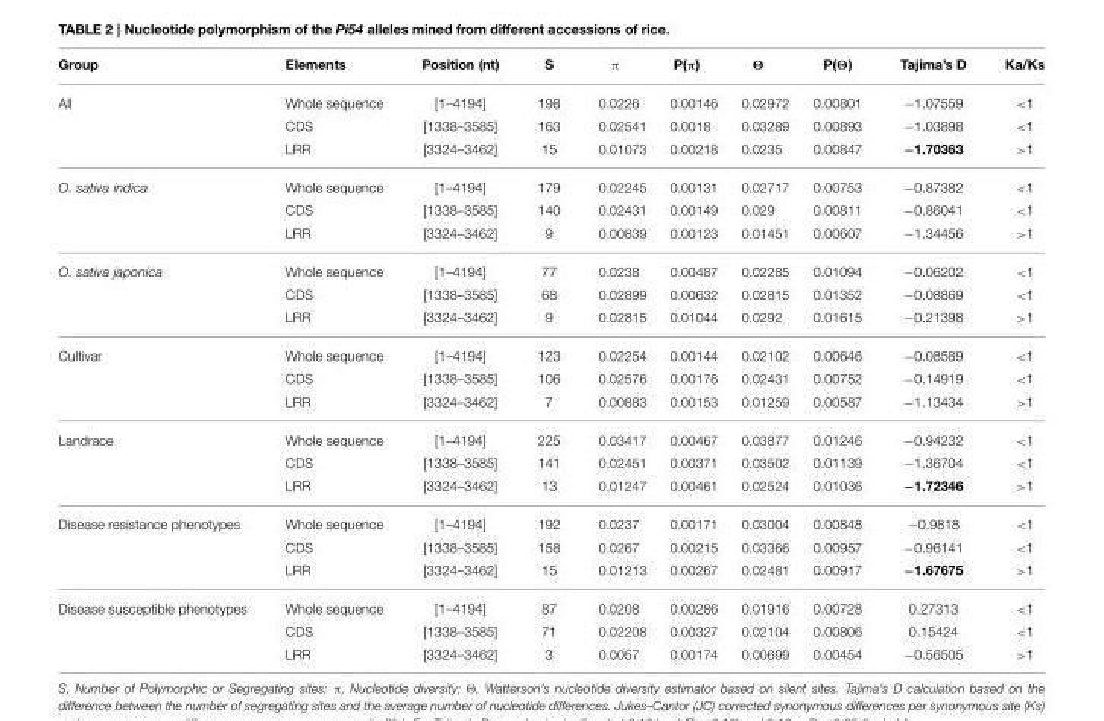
<table><thead><tr><td>Group</td><td>Elements</td><td>Position (nt)</td><td>S</td><td>π</td><td>P(π)</td><td>Θ</td><td>P(Θ)</td><td>Tajima’s D</td><td>Ka/Ks</td></tr></thead><tbody><tr><td rowspan="3">All</td><td>Whole sequence</td><td>[1–4194]</td><td>198</td><td>0.0226</td><td>0.00146</td><td>0.02972</td><td>0.00801</td><td>−1.07559</td><td>&lt;1</td></tr><tr><td>CDS</td><td>[1338–3585]</td><td>163</td><td>0.02541</td><td>0.0018</td><td>0.03289</td><td>0.00893</td><td>−1.03898</td><td>&lt;1</td></tr><tr><td>LRR</td><td>[3324–3462]</td><td>15</td><td>0.01073</td><td>0.00218</td><td>0.0235</td><td>0.00847</td><td>−1.70363</td><td>&gt;1</td></tr><tr><td rowspan="3">O. sativa indica</td><td>Whole sequence</td><td>[1–4194]</td><td>179</td><td>0.02245</td><td>0.00131</td><td>0.02717</td><td>0.00753</td><td>−0.87382</td><td>&lt;1</td></tr><tr><td>CDS</td><td>[1338–3585]</td><td>140</td><td>0.02431</td><td>0.00149</td><td>0.029</td><td>0.00811</td><td>−0.86041</td><td>&lt;1</td></tr><tr><td>LRR</td><td>[3324–3462]</td><td>9</td><td>0.00839</td><td>0.00123</td><td>0.01451</td><td>0.00607</td><td>−1.34456</td><td>&gt;1</td></tr><tr><td rowspan="3">O. sativa japonica</td><td>Whole sequence</td><td>[1–4194]</td><td>77</td><td>0.0238</td><td>0.00487</td><td>0.02285</td><td>0.01094</td><td>−0.06202</td><td>&lt;1</td></tr><tr><td>CDS</td><td>[1338–3585]</td><td>68</td><td>0.02899</td><td>0.00632</td><td>0.02815</td><td>0.01352</td><td>−0.08869</td><td>&lt;1</td></tr><tr><td>LRR</td><td>[3324–3462]</td><td>9</td><td>0.02815</td><td>0.01044</td><td>0.0292</td><td>0.01615</td><td>−0.21398</td><td>&gt;1</td></tr><tr><td rowspan="3">Cultivar</td><td>Whole sequence</td><td>[1–4194]</td><td>123</td><td>0.02254</td><td>0.00144</td><td>0.02102</td><td>0.00646</td><td>−0.08589</td><td>&lt;1</td></tr><tr><td>CDS</td><td>[1338–3585]</td><td>106</td><td>0.02576</td><td>0.00176</td><td>0.02431</td><td>0.00752</td><td>−0.14919</td><td>&lt;1</td></tr><tr><td>LRR</td><td>[3324–3462]</td><td>7</td><td>0.00883</td><td>0.00153</td><td>0.01259</td><td>0.00587</td><td>−1.13434</td><td>&gt;1</td></tr><tr><td rowspan="3">Landrace</td><td>Whole sequence</td><td>[1–4194]</td><td>225</td><td>0.03417</td><td>0.00467</td><td>0.03877</td><td>0.01246</td><td>−0.94232</td><td>&lt;1</td></tr><tr><td>CDS</td><td>[1338–3585]</td><td>141</td><td>0.02451</td><td>0.00371</td><td>0.03502</td><td>0.01139</td><td>−1.36704</td><td>&lt;1</td></tr><tr><td>LRR</td><td>[3324–3462]</td><td>13</td><td>0.01247</td><td>0.00461</td><td>0.02524</td><td>0.01036</td><td>−1.72346</td><td>&gt;1</td></tr><tr><td rowspan="3">Disease resistance phenotypes</td><td>Whole sequence</td><td>[1–4194]</td><td>192</td><td>0.0237</td><td>0.00171</td><td>0.03004</td><td>0.00848</td><td>−0.9818</td><td>&lt;1</td></tr><tr><td>CDS</td><td>[1338–3585]</td><td>158</td><td>0.0267</td><td>0.00215</td><td>0.03366</td><td>0.00957</td><td>−0.96141</td><td>&lt;1</td></tr><tr><td>LRR</td><td>[3324–3462]</td><td>15</td><td>0.01213</td><td>0.00267</td><td>0.02481</td><td>0.00917</td><td>−1.67675</td><td>&gt;1</td></tr><tr><td rowspan="3">Disease susceptible phenotypes</td><td>Whole sequence</td><td>[1–4194]</td><td>87</td><td>0.0208</td><td>0.00286</td><td>0.01916</td><td>0.00728</td><td>0.27313</td><td>&lt;1</td></tr><tr><td>CDS</td><td>[1338–3585]</td><td>71</td><td>0.02208</td><td>0.00327</td><td>0.02104</td><td>0.00806</td><td>0.15424</td><td>&lt;1</td></tr><tr><td>LRR</td><td>[3324–3462]</td><td>3</td><td>0.0057</td><td>0.00174</td><td>0.00699</td><td>0.00454</td><td>−0.56505</td><td>&gt;1</td></tr></tbody></table>